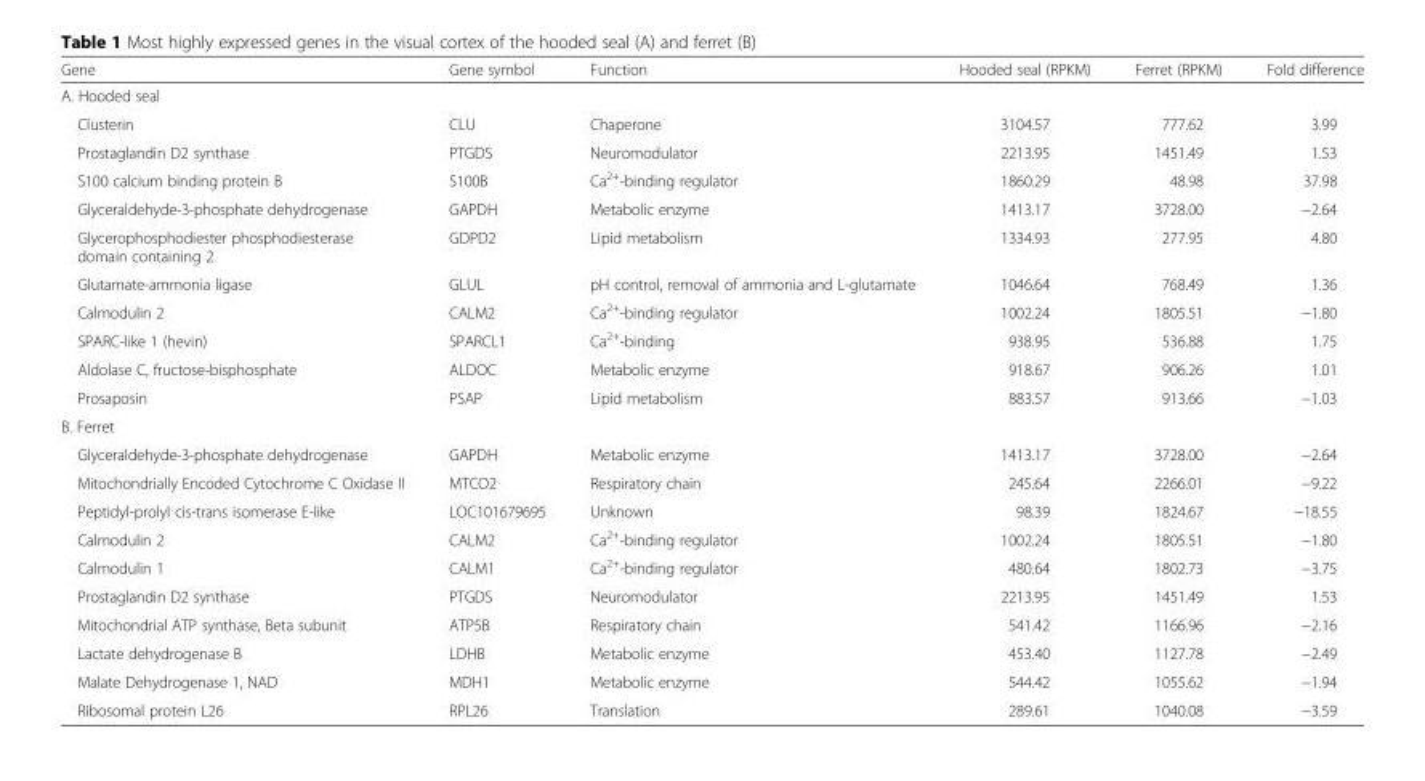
<table><thead><tr><td>Gene</td><td>Gene symbol</td><td>Function</td><td>Hooded seal (RPKM)</td><td>Ferret (RPKM)</td><td>Fold difference</td></tr></thead><tbody><tr><td colspan="6">A. Hooded seal</td></tr><tr><td>Clusterin</td><td>CLU</td><td>Chaperone</td><td>3104.57</td><td>777.62</td><td>3.99</td></tr><tr><td>Prostaglandin D2 synthase</td><td>PTGDS</td><td>Neuromodulator</td><td>2213.95</td><td>1451.49</td><td>1.53</td></tr><tr><td>S100 calcium binding protein B</td><td>S100B</td><td>Ca<sup>2+</sup>-binding regulator</td><td>1860.29</td><td>48.98</td><td>37.98</td></tr><tr><td>Glyceraldehyde-3-phosphate dehydrogenase</td><td>GAPDH</td><td>Metabolic enzyme</td><td>1413.17</td><td>3728.00</td><td>−2.64</td></tr><tr><td>Glycerophosphodiester phosphodiesterase domain containing 2</td><td>GDPD2</td><td>Lipid metabolism</td><td>1334.93</td><td>277.95</td><td>4.80</td></tr><tr><td>Glutamate-ammonia ligase</td><td>GLUL</td><td>pH control, removal of ammonia and L-glutamate</td><td>1046.64</td><td>768.49</td><td>1.36</td></tr><tr><td>Calmodulin 2</td><td>CALM2</td><td>Ca<sup>2+</sup>-binding regulator</td><td>1002.24</td><td>1805.51</td><td>−1.80</td></tr><tr><td>SPARC-like 1 (hevin)</td><td>SPARCL1</td><td>Ca<sup>2+</sup>-binding</td><td>938.95</td><td>536.88</td><td>1.75</td></tr><tr><td>Aldolase C, fructose-bisphosphate</td><td>ALDOC</td><td>Metabolic enzyme</td><td>918.67</td><td>906.26</td><td>1.01</td></tr><tr><td>Prosaposin</td><td>PSAP</td><td>Lipid metabolism</td><td>883.57</td><td>913.66</td><td>−1.03</td></tr><tr><td colspan="6">B. Ferret</td></tr><tr><td>Glyceraldehyde-3-phosphate dehydrogenase</td><td>GAPDH</td><td>Metabolic enzyme</td><td>1413.17</td><td>3728.00</td><td>−2.64</td></tr><tr><td>Mitochondrially Encoded Cytochrome C Oxidase II</td><td>MTCO2</td><td>Respiratory chain</td><td>245.64</td><td>2266.01</td><td>−9.22</td></tr><tr><td>Peptidyl-prolyl cis-trans isomerase E-like</td><td>LOC101679695</td><td>Unknown</td><td>98.39</td><td>1824.67</td><td>−18.55</td></tr><tr><td>Calmodulin 2</td><td>CALM2</td><td>Ca<sup>2+</sup>-binding regulator</td><td>1002.24</td><td>1805.51</td><td>−1.80</td></tr><tr><td>Calmodulin 1</td><td>CALM1</td><td>Ca<sup>2+</sup>-binding regulator</td><td>480.64</td><td>1802.73</td><td>−3.75</td></tr><tr><td>Prostaglandin D2 synthase</td><td>PTGDS</td><td>Neuromodulator</td><td>2213.95</td><td>1451.49</td><td>1.53</td></tr><tr><td>Mitochondrial ATP synthase, Beta subunit</td><td>ATP5B</td><td>Respiratory chain</td><td>541.42</td><td>1166.96</td><td>−2.16</td></tr><tr><td>Lactate dehydrogenase B</td><td>LDHB</td><td>Metabolic enzyme</td><td>453.40</td><td>1127.78</td><td>−2.49</td></tr><tr><td>Malate Dehydrogenase 1, NAD</td><td>MDH1</td><td>Metabolic enzyme</td><td>544.42</td><td>1055.62</td><td>−1.94</td></tr><tr><td>Ribosomal protein L26</td><td>RPL26</td><td>Translation</td><td>289.61</td><td>1040.08</td><td>−3.59</td></tr></tbody></table>